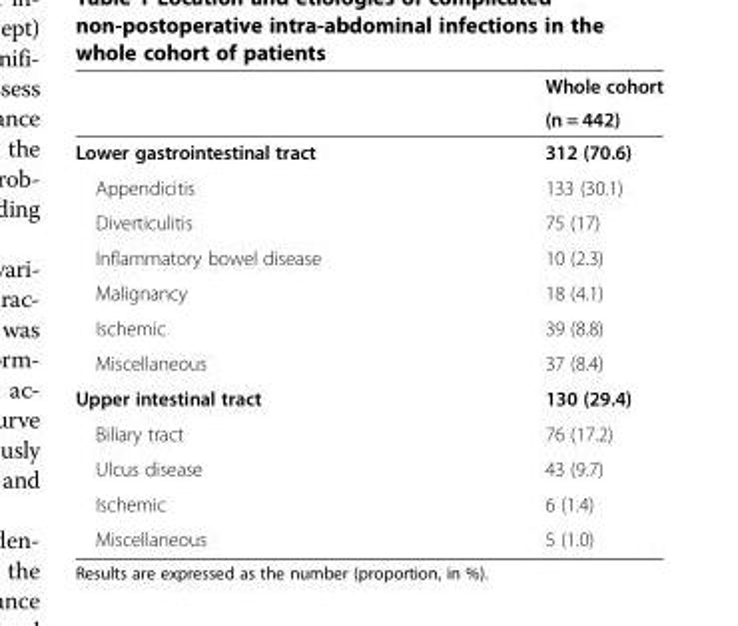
<table><thead><tr><td rowspan="2"></td><td rowspan="2">Whole cohort (n = 442)</td></tr><tr></tr></thead><tbody><tr><td>Lower gastrointestinal tract</td><td>312 (70.6)</td></tr><tr><td>Appendicitis</td><td>133 (30.1)</td></tr><tr><td>Diverticulitis</td><td>75 (17)</td></tr><tr><td>Inflammatory bowel disease</td><td>10 (2.3)</td></tr><tr><td>Malignancy</td><td>18 (4.1)</td></tr><tr><td>Ischemic</td><td>39 (8.8)</td></tr><tr><td>Miscellaneous</td><td>37 (8.4)</td></tr><tr><td>Upper intestinal tract</td><td>130 (29.4)</td></tr><tr><td>Biliary tract</td><td>76 (17.2)</td></tr><tr><td>Ulcus disease</td><td>43 (9.7)</td></tr><tr><td>Ischemic</td><td>6 (1.4)</td></tr><tr><td>Miscellaneous</td><td>5 (1.0)</td></tr></tbody></table>